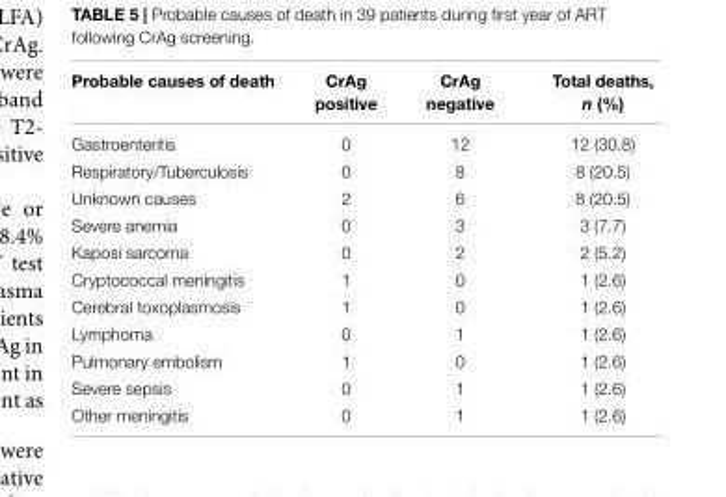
<table><thead><tr><td>Probable causes of death</td><td>CrAg positive</td><td>CrAg negative</td><td>Total deaths, n (%)</td></tr></thead><tbody><tr><td>Gastroenteritis</td><td>0</td><td>12</td><td>12 (30.8)</td></tr><tr><td>Respiratory/Tuberculosis</td><td>0</td><td>8</td><td>8 (20.5)</td></tr><tr><td>Unknown causes</td><td>2</td><td>6</td><td>8 (20.5)</td></tr><tr><td>Severe anemia</td><td>0</td><td>3</td><td>3 (7.7)</td></tr><tr><td>Kaposi sarcoma</td><td>0</td><td>2</td><td>2 (5.2)</td></tr><tr><td>Cryptococcal meningitis</td><td>1</td><td>0</td><td>1 (2.6)</td></tr><tr><td>Cerebral toxoplasmosis</td><td>1</td><td>0</td><td>1 (2.6)</td></tr><tr><td>Lymphoma</td><td>0</td><td>1</td><td>1 (2.6)</td></tr><tr><td>Pulmonary embolism</td><td>1</td><td>0</td><td>1 (2.6)</td></tr><tr><td>Severe sepsis</td><td>0</td><td>1</td><td>1 (2.6)</td></tr><tr><td>Other meningitis</td><td>0</td><td>1</td><td>1 (2.6)</td></tr></tbody></table>